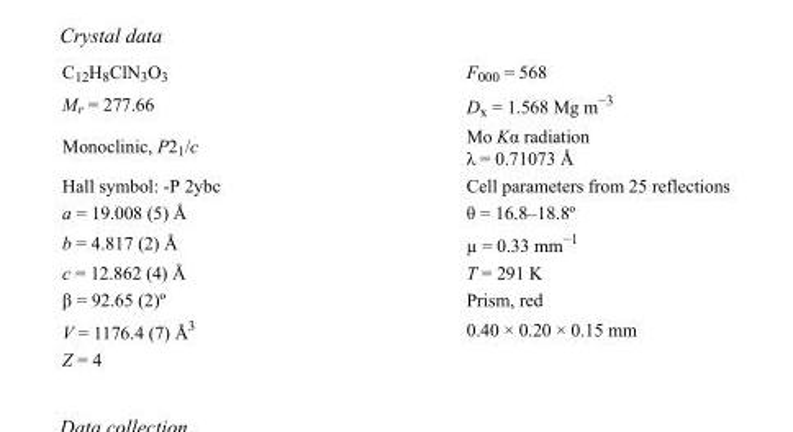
<table><tbody><tr><td>C<sub>12</sub>H<sub>8</sub>ClN<sub>3</sub>O<sub>3</sub></td><td>F000 = 568</td></tr><tr><td>M<sub>r</sub> = 277.66</td><td>D<sub>x</sub> = 1.568 Mg m<sup>−3</sup></td></tr><tr><td>Monoclinic, P2<sub>1</sub>/c</td><td>Mo Kα radiation λ = 0.71073 Å</td></tr><tr><td>Hall symbol: -P 2ybc</td><td>Cell parameters from 25 reflections</td></tr><tr><td>a = 19.008 (5) Å</td><td>θ = 16.8–18.8º</td></tr><tr><td>b = 4.817 (2) Å</td><td>µ = 0.33 mm<sup>−1</sup></td></tr><tr><td>c = 12.862 (4) Å</td><td>T = 291 K</td></tr><tr><td>β = 92.65 (2)º</td><td>Prism, red</td></tr><tr><td>V = 1176.4 (7) Å<sup>3</sup></td><td>0.40 × 0.20 × 0.15 mm</td></tr><tr><td>Z = 4</td><td></td></tr></tbody></table>